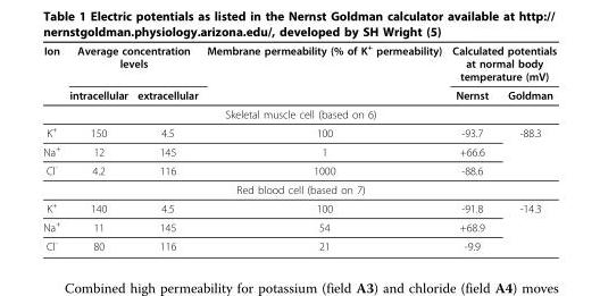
<table><thead><tr><td rowspan="2">Ion</td><td colspan="2">Average concentration levels</td><td rowspan="2">Membrane permeability (% of K<sup>+</sup> permeability)</td><td colspan="2">Calculated potentials at normal body temperature (mV)</td></tr><tr><td>intracellular</td><td>extracellular</td><td>Nernst</td><td>Goldman</td></tr></thead><tbody><tr><td colspan="6">Skeletal muscle cell (based on 6)</td></tr><tr><td>K<sup>+</sup></td><td>150</td><td>4.5</td><td>100</td><td>-93.7</td><td>-88.3</td></tr><tr><td>Na<sup>+</sup></td><td>12</td><td>145</td><td>1</td><td>+66.6</td><td></td></tr><tr><td>Cl<sup>-</sup></td><td>4.2</td><td>116</td><td>1000</td><td>-88.6</td><td></td></tr><tr><td colspan="6">Red blood cell (based on 7)</td></tr><tr><td>K<sup>+</sup></td><td>140</td><td>4.5</td><td>100</td><td>-91.8</td><td>-14.3</td></tr><tr><td>Na<sup>+</sup></td><td>11</td><td>145</td><td>54</td><td>+68.9</td><td></td></tr><tr><td>Cl<sup>-</sup></td><td>80</td><td>116</td><td>21</td><td>-9.9</td><td></td></tr></tbody></table>